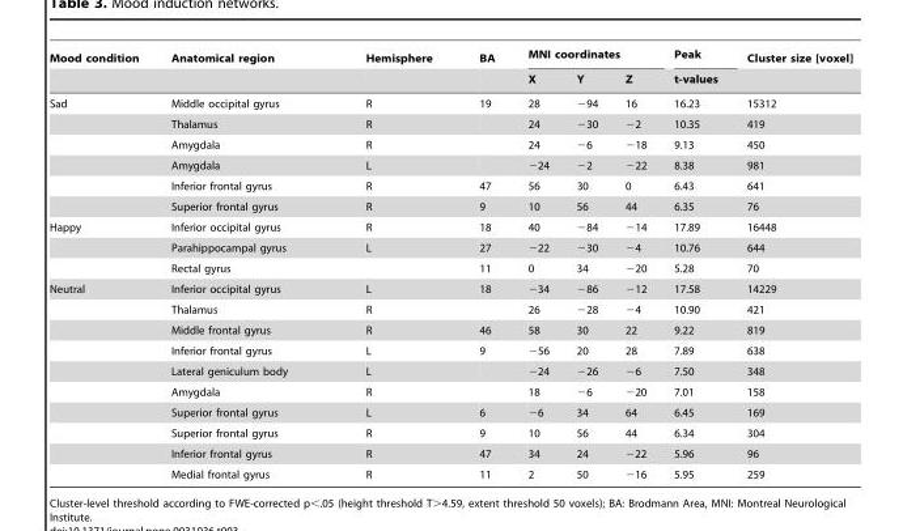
<table><thead><tr><td rowspan="2">Mood condition</td><td rowspan="2">Anatomical region</td><td rowspan="2">Hemisphere</td><td rowspan="2">BA</td><td colspan="3">MNI coordinates</td><td rowspan="2">Peak t-values</td><td rowspan="2">Cluster size [voxel]</td></tr><tr><td>X</td><td>Y</td><td>Z</td></tr></thead><tbody><tr><td rowspan="6">Sad</td><td>Middle occipital gyrus</td><td>R</td><td>19</td><td>28</td><td>−94</td><td>16</td><td>16.23</td><td>15312</td></tr><tr><td>Thalamus</td><td>R</td><td></td><td>24</td><td>−30</td><td>−2</td><td>10.35</td><td>419</td></tr><tr><td>Amygdala</td><td>R</td><td></td><td>24</td><td>−6</td><td>−18</td><td>9.13</td><td>450</td></tr><tr><td>Amygdala</td><td>L</td><td></td><td>−24</td><td>−2</td><td>−22</td><td>8.38</td><td>981</td></tr><tr><td>Inferior frontal gyrus</td><td>R</td><td>47</td><td>56</td><td>30</td><td>0</td><td>6.43</td><td>641</td></tr><tr><td>Superior frontal gyrus</td><td>R</td><td>9</td><td>10</td><td>56</td><td>44</td><td>6.35</td><td>76</td></tr><tr><td rowspan="3">Happy</td><td>Inferior occipital gyrus</td><td>R</td><td>18</td><td>40</td><td>−84</td><td>−14</td><td>17.89</td><td>16448</td></tr><tr><td>Parahippocampal gyrus</td><td>L</td><td>27</td><td>−22</td><td>−30</td><td>−4</td><td>10.76</td><td>644</td></tr><tr><td>Rectal gyrus</td><td></td><td>11</td><td>0</td><td>34</td><td>−20</td><td>5.28</td><td>70</td></tr><tr><td rowspan="10">Neutral</td><td>Inferior occipital gyrus</td><td>L</td><td>18</td><td>−34</td><td>−86</td><td>−12</td><td>17.58</td><td>14229</td></tr><tr><td>Thalamus</td><td>R</td><td></td><td>26</td><td>−28</td><td>−4</td><td>10.90</td><td>421</td></tr><tr><td>Middle frontal gyrus</td><td>R</td><td>46</td><td>58</td><td>30</td><td>22</td><td>9.22</td><td>819</td></tr><tr><td>Inferior frontal gyrus</td><td>L</td><td>9</td><td>−56</td><td>20</td><td>28</td><td>7.89</td><td>638</td></tr><tr><td>Lateral geniculum body</td><td>L</td><td></td><td>−24</td><td>−26</td><td>−6</td><td>7.50</td><td>348</td></tr><tr><td>Amygdala</td><td>R</td><td></td><td>18</td><td>−6</td><td>−20</td><td>7.01</td><td>158</td></tr><tr><td>Superior frontal gyrus</td><td>L</td><td>6</td><td>−6</td><td>34</td><td>64</td><td>6.45</td><td>169</td></tr><tr><td>Superior frontal gyrus</td><td>R</td><td>9</td><td>10</td><td>56</td><td>44</td><td>6.34</td><td>304</td></tr><tr><td>Inferior frontal gyrus</td><td>R</td><td>47</td><td>34</td><td>24</td><td>−22</td><td>5.96</td><td>96</td></tr><tr><td>Medial frontal gyrus</td><td>R</td><td>11</td><td>2</td><td>50</td><td>−16</td><td>5.95</td><td>259</td></tr></tbody></table>